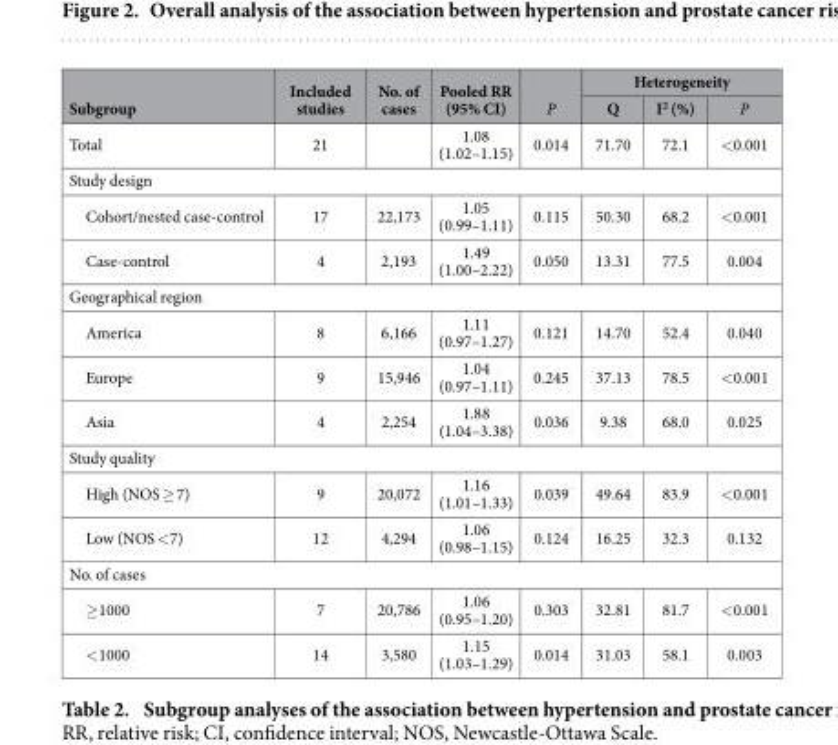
<table><thead><tr><td rowspan="2">Subgroup</td><td rowspan="2">Included studies</td><td rowspan="2">No. of cases</td><td rowspan="2">Pooled RR (95% CI)</td><td rowspan="2">P</td><td colspan="3">Heterogeneity</td></tr><tr><td>Q</td><td>I<sup>2</sup> (%)</td><td>P</td></tr></thead><tbody><tr><td>Total</td><td>21</td><td></td><td>1.08 (1.02–1.15)</td><td>0.014</td><td>71.70</td><td>72.1</td><td>&lt; 0.001</td></tr><tr><td colspan="8">Study design</td></tr><tr><td>Cohort/nested case-control</td><td>17</td><td>22,173</td><td>1.05 (0.99–1.11)</td><td>0.115</td><td>50.30</td><td>68.2</td><td>&lt; 0.001</td></tr><tr><td>Case-control</td><td>4</td><td>2,193</td><td>1.49 (1.00–2.22)</td><td>0.050</td><td>13.31</td><td>77.5</td><td>0.004</td></tr><tr><td colspan="8">Geographical region</td></tr><tr><td>America</td><td>8</td><td>6,166</td><td>1.11 (0.97–1.27)</td><td>0.121</td><td>14.70</td><td>52.4</td><td>0.040</td></tr><tr><td>Europe</td><td>9</td><td>15,946</td><td>1.04 (0.97–1.11)</td><td>0.245</td><td>37.13</td><td>78.5</td><td>&lt; 0.001</td></tr><tr><td>Asia</td><td>4</td><td>2,254</td><td>1.88 (1.04–3.38)</td><td>0.036</td><td>9.38</td><td>68.0</td><td>0.025</td></tr><tr><td colspan="8">Study quality</td></tr><tr><td>High (NOS ≥ 7)</td><td>9</td><td>20,072</td><td>1.16 (1.01–1.33)</td><td>0.039</td><td>49.64</td><td>83.9</td><td>&lt; 0.001</td></tr><tr><td>Low (NOS &lt; 7)</td><td>12</td><td>4,294</td><td>1.06 (0.98–1.15)</td><td>0.124</td><td>16.25</td><td>32.3</td><td>0.132</td></tr><tr><td colspan="8">No. of cases</td></tr><tr><td>≥ 1000</td><td>7</td><td>20,786</td><td>1.06 (0.95–1.20)</td><td>0.303</td><td>32.81</td><td>81.7</td><td>&lt; 0.001</td></tr><tr><td>&lt; 1000</td><td>14</td><td>3,580</td><td>1.15 (1.03–1.29)</td><td>0.014</td><td>31.03</td><td>58.1</td><td>0.003</td></tr></tbody></table>